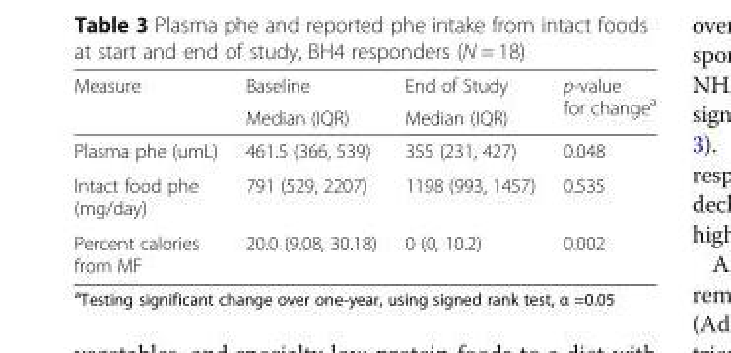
<table><thead><tr><td rowspan="2">Measure</td><td rowspan="2">Baseline Median (IQR)</td><td rowspan="2">End of Study Median (IQR)</td><td rowspan="2">p-value for change<sup>a</sup></td></tr><tr></tr></thead><tbody><tr><td>Plasma phe (umL)</td><td>461.5 (366, 539)</td><td>355 (231, 427)</td><td>0.048</td></tr><tr><td>Intact food phe (mg/day)</td><td>791 (529, 2207)</td><td>1198 (993, 1457)</td><td>0.535</td></tr><tr><td>Percent calories from MF</td><td>20.0 (9.08, 30.18)</td><td>0 (0, 10.2)</td><td>0.002</td></tr></tbody></table>